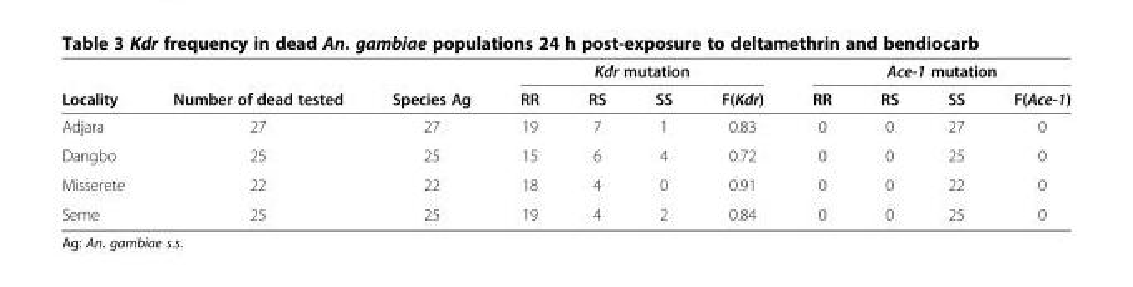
<table><thead><tr><td rowspan="2">Locality</td><td rowspan="2">Number of dead tested</td><td rowspan="2">Species Ag</td><td colspan="4">Kdr mutation</td><td colspan="4">Ace-1 mutation</td></tr><tr><td>RR</td><td>RS</td><td>SS</td><td>F(Kdr)</td><td>RR</td><td>RS</td><td>SS</td><td>F(Ace-1)</td></tr></thead><tbody><tr><td>Adjara</td><td>27</td><td>27</td><td>19</td><td>7</td><td>1</td><td>0.83</td><td>0</td><td>0</td><td>27</td><td>0</td></tr><tr><td>Dangbo</td><td>25</td><td>25</td><td>15</td><td>6</td><td>4</td><td>0.72</td><td>0</td><td>0</td><td>25</td><td>0</td></tr><tr><td>Misserete</td><td>22</td><td>22</td><td>18</td><td>4</td><td>0</td><td>0.91</td><td>0</td><td>0</td><td>22</td><td>0</td></tr><tr><td>Seme</td><td>25</td><td>25</td><td>19</td><td>4</td><td>2</td><td>0.84</td><td>0</td><td>0</td><td>25</td><td>0</td></tr></tbody></table>